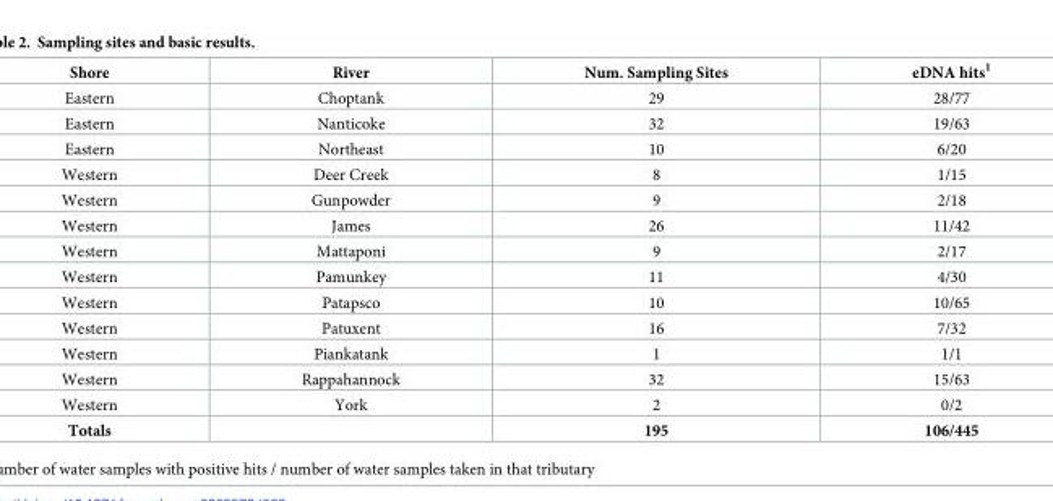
<table><thead><tr><td>Shore</td><td>River</td><td>Num. Sampling Sites</td><td>eDNA hits<sup>1</sup></td></tr></thead><tbody><tr><td>Eastern</td><td>Choptank</td><td>29</td><td>28/77</td></tr><tr><td>Eastern</td><td>Nanticoke</td><td>32</td><td>19/63</td></tr><tr><td>Eastern</td><td>Northeast</td><td>10</td><td>6/20</td></tr><tr><td>Western</td><td>Deer Creek</td><td>8</td><td>1/15</td></tr><tr><td>Western</td><td>Gunpowder</td><td>9</td><td>2/18</td></tr><tr><td>Western</td><td>James</td><td>26</td><td>11/42</td></tr><tr><td>Western</td><td>Mattaponi</td><td>9</td><td>2/17</td></tr><tr><td>Western</td><td>Pamunkey</td><td>11</td><td>4/30</td></tr><tr><td>Western</td><td>Patapsco</td><td>10</td><td>10/65</td></tr><tr><td>Western</td><td>Patuxent</td><td>16</td><td>7/32</td></tr><tr><td>Western</td><td>Piankatank</td><td>1</td><td>1/1</td></tr><tr><td>Western</td><td>Rappahannock</td><td>32</td><td>15/63</td></tr><tr><td>Western</td><td>York</td><td>2</td><td>0/2</td></tr><tr><td>Totals</td><td></td><td>195</td><td>106/445</td></tr></tbody></table>